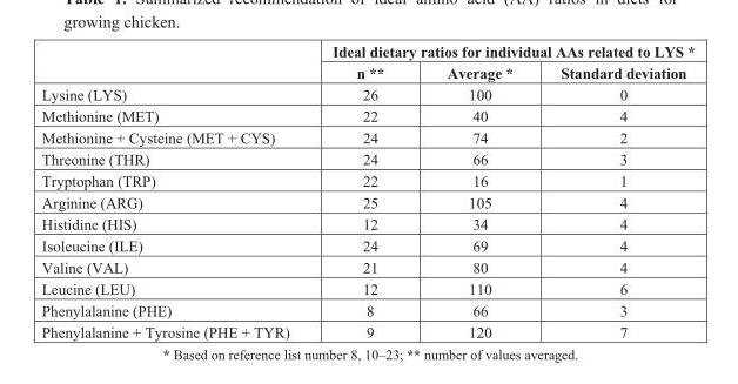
<table><thead><tr><td rowspan="2"></td><td colspan="3">Ideal dietary ratios for individual AAs related to LYS *</td></tr><tr><td>n **</td><td>Average *</td><td>Standard deviation</td></tr></thead><tbody><tr><td>Lysine (LYS)</td><td>26</td><td>100</td><td>0</td></tr><tr><td>Methionine (MET)</td><td>22</td><td>40</td><td>4</td></tr><tr><td>Methionine + Cysteine (MET + CYS)</td><td>24</td><td>74</td><td>2</td></tr><tr><td>Threonine (THR)</td><td>24</td><td>66</td><td>3</td></tr><tr><td>Tryptophan (TRP)</td><td>22</td><td>16</td><td>1</td></tr><tr><td>Arginine (ARG)</td><td>25</td><td>105</td><td>4</td></tr><tr><td>Histidine (HIS)</td><td>12</td><td>34</td><td>4</td></tr><tr><td>Isoleucine (ILE)</td><td>24</td><td>69</td><td>4</td></tr><tr><td>Valine (VAL)</td><td>21</td><td>80</td><td>4</td></tr><tr><td>Leucine (LEU)</td><td>12</td><td>110</td><td>6</td></tr><tr><td>Phenylalanine (PHE)</td><td>8</td><td>66</td><td>3</td></tr><tr><td>Phenylalanine + Tyrosine (PHE + TYR)</td><td>9</td><td>120</td><td>7</td></tr></tbody></table>